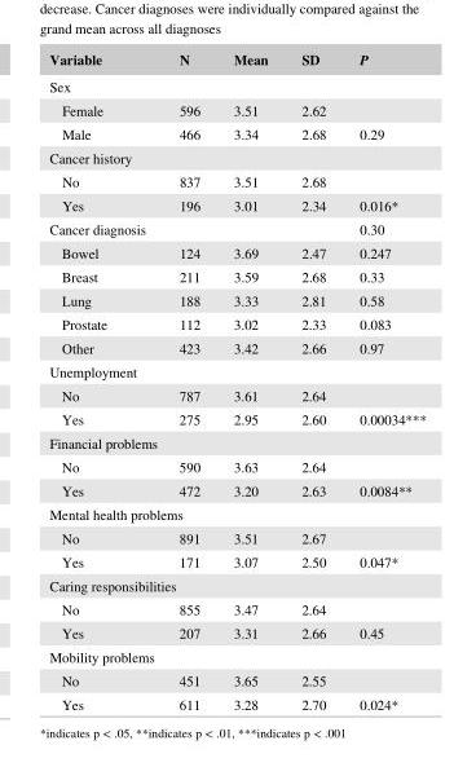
<table><thead><tr><td>Variable</td><td>N</td><td>Mean</td><td>SD</td><td>P</td></tr></thead><tbody><tr><td colspan="5">Sex</td></tr><tr><td>Female</td><td>596</td><td>3.51</td><td>2.62</td><td></td></tr><tr><td>Male</td><td>466</td><td>3.34</td><td>2.68</td><td>0.29</td></tr><tr><td colspan="5">Cancer history</td></tr><tr><td>No</td><td>837</td><td>3.51</td><td>2.68</td><td></td></tr><tr><td>Yes</td><td>196</td><td>3.01</td><td>2.34</td><td>0.016*</td></tr><tr><td>Cancer diagnosis</td><td></td><td></td><td></td><td>0.30</td></tr><tr><td>Bowel</td><td>124</td><td>3.69</td><td>2.47</td><td>0.247</td></tr><tr><td>Breast</td><td>211</td><td>3.59</td><td>2.68</td><td>0.33</td></tr><tr><td>Lung</td><td>188</td><td>3.33</td><td>2.81</td><td>0.58</td></tr><tr><td>Prostate</td><td>112</td><td>3.02</td><td>2.33</td><td>0.083</td></tr><tr><td>Other</td><td>423</td><td>3.42</td><td>2.66</td><td>0.97</td></tr><tr><td colspan="5">Unemployment</td></tr><tr><td>No</td><td>787</td><td>3.61</td><td>2.64</td><td></td></tr><tr><td>Yes</td><td>275</td><td>2.95</td><td>2.60</td><td>0.00034***</td></tr><tr><td colspan="5">Financial problems</td></tr><tr><td>No</td><td>590</td><td>3.63</td><td>2.64</td><td></td></tr><tr><td>Yes</td><td>472</td><td>3.20</td><td>2.63</td><td>0.0084**</td></tr><tr><td colspan="5">Mental health problems</td></tr><tr><td>No</td><td>891</td><td>3.51</td><td>2.67</td><td></td></tr><tr><td>Yes</td><td>171</td><td>3.07</td><td>2.50</td><td>0.047*</td></tr><tr><td colspan="5">Caring responsibilities</td></tr><tr><td>No</td><td>855</td><td>3.47</td><td>2.64</td><td></td></tr><tr><td>Yes</td><td>207</td><td>3.31</td><td>2.66</td><td>0.45</td></tr><tr><td colspan="5">Mobility problems</td></tr><tr><td>No</td><td>451</td><td>3.65</td><td>2.55</td><td></td></tr><tr><td>Yes</td><td>611</td><td>3.28</td><td>2.70</td><td>0.024*</td></tr></tbody></table>